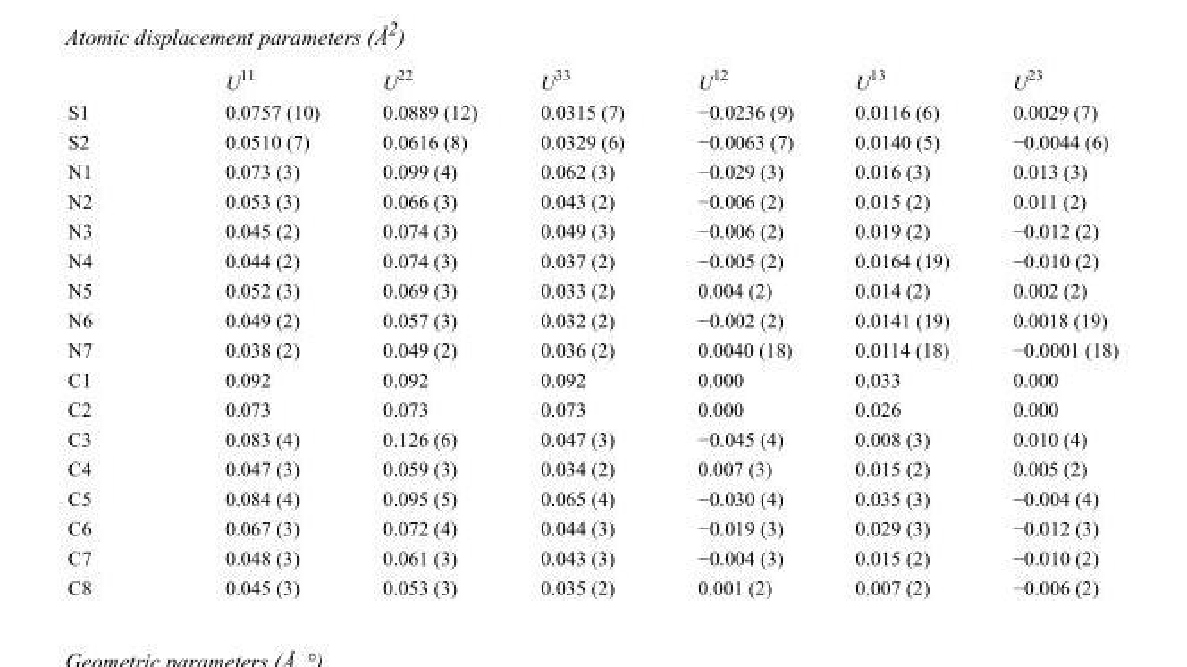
<table><thead><tr><td></td><td>U<sup>11</sup></td><td>U<sup>22</sup></td><td>U<sup>33</sup></td><td>U<sup>12</sup></td><td>U<sup>13</sup></td><td>U<sup>23</sup></td></tr></thead><tbody><tr><td>S1</td><td>0.0757 (10)</td><td>0.0889 (12)</td><td>0.0315 (7)</td><td>−0.0236 (9)</td><td>0.0116 (6)</td><td>0.0029 (7)</td></tr><tr><td>S2</td><td>0.0510 (7)</td><td>0.0616 (8)</td><td>0.0329 (6)</td><td>−0.0063 (7)</td><td>0.0140 (5)</td><td>−0.0044 (6)</td></tr><tr><td>N1</td><td>0.073 (3)</td><td>0.099 (4)</td><td>0.062 (3)</td><td>−0.029 (3)</td><td>0.016 (3)</td><td>0.013 (3)</td></tr><tr><td>N2</td><td>0.053 (3)</td><td>0.066 (3)</td><td>0.043 (2)</td><td>−0.006 (2)</td><td>0.015 (2)</td><td>0.011 (2)</td></tr><tr><td>N3</td><td>0.045 (2)</td><td>0.074 (3)</td><td>0.049 (3)</td><td>−0.006 (2)</td><td>0.019 (2)</td><td>−0.012 (2)</td></tr><tr><td>N4</td><td>0.044 (2)</td><td>0.074 (3)</td><td>0.037 (2)</td><td>−0.005 (2)</td><td>0.0164 (19)</td><td>−0.010 (2)</td></tr><tr><td>N5</td><td>0.052 (3)</td><td>0.069 (3)</td><td>0.033 (2)</td><td>0.004 (2)</td><td>0.014 (2)</td><td>0.002 (2)</td></tr><tr><td>N6</td><td>0.049 (2)</td><td>0.057 (3)</td><td>0.032 (2)</td><td>−0.002 (2)</td><td>0.0141 (19)</td><td>0.0018 (19)</td></tr><tr><td>N7</td><td>0.038 (2)</td><td>0.049 (2)</td><td>0.036 (2)</td><td>0.0040 (18)</td><td>0.0114 (18)</td><td>−0.0001 (18)</td></tr><tr><td>C1</td><td>0.092</td><td>0.092</td><td>0.092</td><td>0.000</td><td>0.033</td><td>0.000</td></tr><tr><td>C2</td><td>0.073</td><td>0.073</td><td>0.073</td><td>0.000</td><td>0.026</td><td>0.000</td></tr><tr><td>C3</td><td>0.083 (4)</td><td>0.126 (6)</td><td>0.047 (3)</td><td>−0.045 (4)</td><td>0.008 (3)</td><td>0.010 (4)</td></tr><tr><td>C4</td><td>0.047 (3)</td><td>0.059 (3)</td><td>0.034 (2)</td><td>0.007 (3)</td><td>0.015 (2)</td><td>0.005 (2)</td></tr><tr><td>C5</td><td>0.084 (4)</td><td>0.095 (5)</td><td>0.065 (4)</td><td>−0.030 (4)</td><td>0.035 (3)</td><td>−0.004 (4)</td></tr><tr><td>C6</td><td>0.067 (3)</td><td>0.072 (4)</td><td>0.044 (3)</td><td>−0.019 (3)</td><td>0.029 (3)</td><td>−0.012 (3)</td></tr><tr><td>C7</td><td>0.048 (3)</td><td>0.061 (3)</td><td>0.043 (3)</td><td>−0.004 (3)</td><td>0.015 (2)</td><td>−0.010 (2)</td></tr><tr><td>C8</td><td>0.045 (3)</td><td>0.053 (3)</td><td>0.035 (2)</td><td>0.001 (2)</td><td>0.007 (2)</td><td>−0.006 (2)</td></tr></tbody></table>